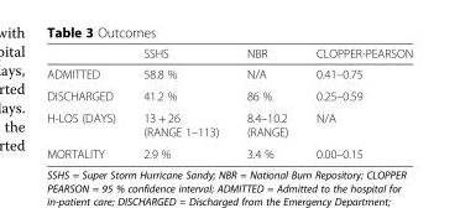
<table><thead><tr><td></td><td>SSHS</td><td>NBR</td><td>CLOPPER-PEARSON</td></tr></thead><tbody><tr><td>ADMITTED</td><td>58.8 %</td><td>N/A</td><td>0.41–0.75</td></tr><tr><td>DISCHARGED</td><td>41.2 %</td><td>86 %</td><td>0.25–0.59</td></tr><tr><td>H-LOS (DAYS)</td><td>13 + 26 (RANGE 1–113)</td><td>8.4–10.2 (RANGE)</td><td>N/A</td></tr><tr><td>MORTALITY</td><td>2.9 %</td><td>3.4 %</td><td>0.00–0.15</td></tr></tbody></table>